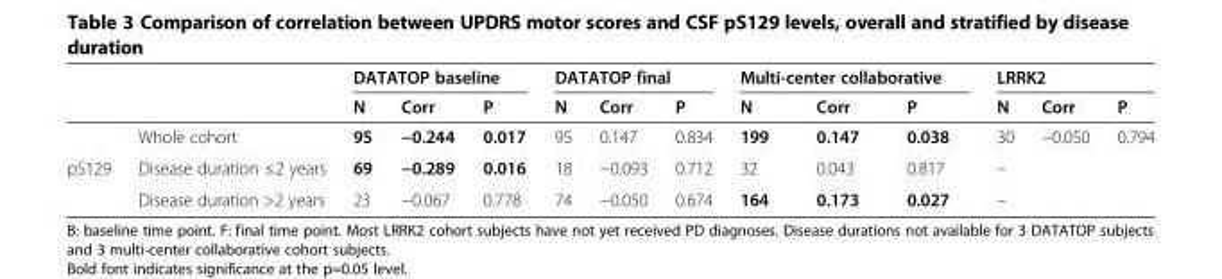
<table><thead><tr><td rowspan="2"></td><td rowspan="2"></td><td colspan="3">DATATOP baseline</td><td colspan="3">DATATOP final</td><td colspan="3">Multi-center collaborative</td><td colspan="3">LRRK2</td></tr><tr><td>N</td><td>Corr</td><td>P</td><td>N</td><td>Corr</td><td>P</td><td>N</td><td>Corr</td><td>P</td><td>N</td><td>Corr</td><td>P</td></tr></thead><tbody><tr><td rowspan="3">pS129</td><td>Whole cohort</td><td>95</td><td>−0.244</td><td>0.017</td><td>95</td><td>0.147</td><td>0.834</td><td>199</td><td>0.147</td><td>0.038</td><td>30</td><td>−0.050</td><td>0.794</td></tr><tr><td>Disease duration ≤2 years</td><td>69</td><td>−0.289</td><td>0.016</td><td>18</td><td>−0.093</td><td>0.712</td><td>32</td><td>0.043</td><td>0.817</td><td>–</td><td></td><td></td></tr><tr><td>Disease duration &gt;2 years</td><td>23</td><td>−0.067</td><td>0.778</td><td>74</td><td>−0.050</td><td>0.674</td><td>164</td><td>0.173</td><td>0.027</td><td>–</td><td></td><td></td></tr></tbody></table>